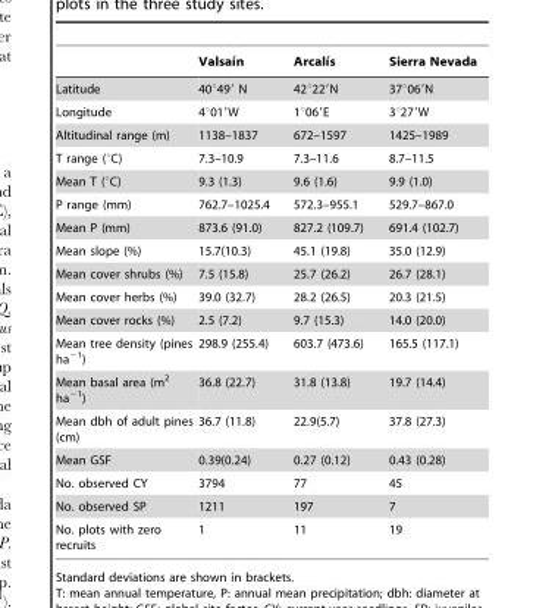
<table><thead><tr><td></td><td>Valsaı´n</td><td>Arcalı´s</td><td>Sierra Nevada</td></tr></thead><tbody><tr><td>Latitude</td><td>40°49′ N</td><td>42°22′N</td><td>37°06′N</td></tr><tr><td>Longitude</td><td>4°01′W</td><td>1°06′E</td><td>3°27′W</td></tr><tr><td>Altitudinal range (m)</td><td>1138–1837</td><td>672–1597</td><td>1425–1989</td></tr><tr><td>T range (°C)</td><td>7.3–10.9</td><td>7.3–11.6</td><td>8.7–11.5</td></tr><tr><td>Mean T (°C)</td><td>9.3 (1.3)</td><td>9.6 (1.6)</td><td>9.9 (1.0)</td></tr><tr><td>P range (mm)</td><td>762.7–1025.4</td><td>572.3–955.1</td><td>529.7–867.0</td></tr><tr><td>Mean P (mm)</td><td>873.6 (91.0)</td><td>827.2 (109.7)</td><td>691.4 (102.7)</td></tr><tr><td>Mean slope (%)</td><td>15.7(10.3)</td><td>45.1 (19.8)</td><td>35.0 (12.9)</td></tr><tr><td>Mean cover shrubs (%)</td><td>7.5 (15.8)</td><td>25.7 (26.2)</td><td>26.7 (28.1)</td></tr><tr><td>Mean cover herbs (%)</td><td>39.0 (32.7)</td><td>28.2 (26.5)</td><td>20.3 (21.5)</td></tr><tr><td>Mean cover rocks (%)</td><td>2.5 (7.2)</td><td>9.7 (15.3)</td><td>14.0 (20.0)</td></tr><tr><td>Mean tree density (pines ha<sup>−1</sup>)</td><td>298.9 (255.4)</td><td>603.7 (473.6)</td><td>165.5 (117.1)</td></tr><tr><td>Mean basal area (m<sup>2</sup> ha<sup>−1</sup>)</td><td>36.8 (22.7)</td><td>31.8 (13.8)</td><td>19.7 (14.4)</td></tr><tr><td>Mean dbh of adult pines (cm)</td><td>36.7 (11.8)</td><td>22.9(5.7)</td><td>37.8 (27.3)</td></tr><tr><td>Mean GSF</td><td>0.39(0.24)</td><td>0.27 (0.12)</td><td>0.43 (0.28)</td></tr><tr><td>No. observed CY</td><td>3794</td><td>77</td><td>45</td></tr><tr><td>No. observed SP</td><td>1211</td><td>197</td><td>7</td></tr><tr><td>No. plots with zero recruits</td><td>1</td><td>11</td><td>19</td></tr></tbody></table>